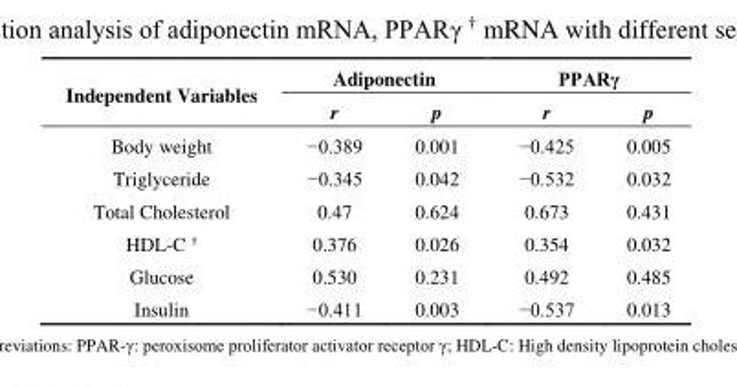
<table><thead><tr><td rowspan="2">Independent Variables</td><td colspan="2">Adiponectin</td><td colspan="2">PPARγ</td></tr><tr><td>r</td><td>p</td><td>r</td><td>p</td></tr></thead><tbody><tr><td>Body weight</td><td>−0.389</td><td>0.001</td><td>−0.425</td><td>0.005</td></tr><tr><td>Triglyceride</td><td>−0.345</td><td>0.042</td><td>−0.532</td><td>0.032</td></tr><tr><td>Total Cholesterol</td><td>0.47</td><td>0.624</td><td>0.673</td><td>0.431</td></tr><tr><td>HDL-C <sup>†</sup></td><td>0.376</td><td>0.026</td><td>0.354</td><td>0.032</td></tr><tr><td>Glucose</td><td>0.530</td><td>0.231</td><td>0.492</td><td>0.485</td></tr><tr><td>Insulin</td><td>−0.411</td><td>0.003</td><td>−0.537</td><td>0.013</td></tr></tbody></table>